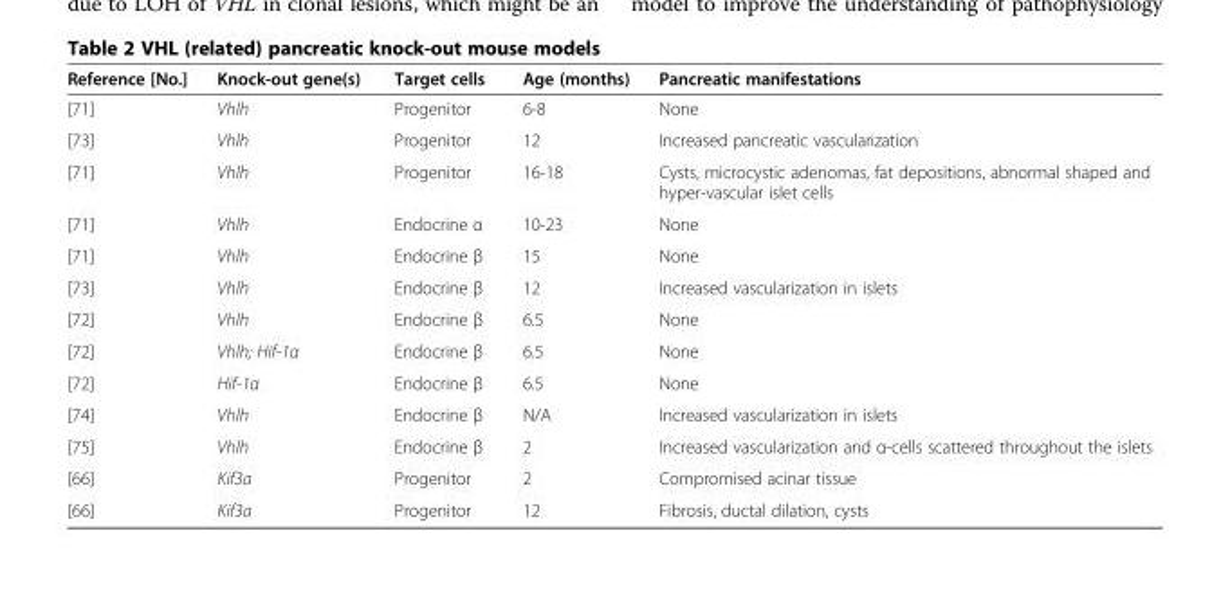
<table><thead><tr><td>Reference [No.]</td><td>Knock-out gene(s)</td><td>Target cells</td><td>Age (months)</td><td>Pancreatic manifestations</td></tr></thead><tbody><tr><td>[71]</td><td>Vhlh</td><td>Progenitor</td><td>6-8</td><td>None</td></tr><tr><td>[73]</td><td>Vhlh</td><td>Progenitor</td><td>12</td><td>Increased pancreatic vascularization</td></tr><tr><td>[71]</td><td>Vhlh</td><td>Progenitor</td><td>16-18</td><td>Cysts, microcystic adenomas, fat depositions, abnormal shaped and hyper-vascular islet cells</td></tr><tr><td>[71]</td><td>Vhlh</td><td>Endocrine α</td><td>10-23</td><td>None</td></tr><tr><td>[71]</td><td>Vhlh</td><td>Endocrine β</td><td>15</td><td>None</td></tr><tr><td>[73]</td><td>Vhlh</td><td>Endocrine β</td><td>12</td><td>Increased vascularization in islets</td></tr><tr><td>[72]</td><td>Vhlh</td><td>Endocrine β</td><td>6.5</td><td>None</td></tr><tr><td>[72]</td><td>Vhlh; Hif-1α</td><td>Endocrine β</td><td>6.5</td><td>None</td></tr><tr><td>[72]</td><td>Hif-1α</td><td>Endocrine β</td><td>6.5</td><td>None</td></tr><tr><td>[74]</td><td>Vhlh</td><td>Endocrine β</td><td>N/A</td><td>Increased vascularization in islets</td></tr><tr><td>[75]</td><td>Vhlh</td><td>Endocrine β</td><td>2</td><td>Increased vascularization and α-cells scattered throughout the islets</td></tr><tr><td>[66]</td><td>Kif3a</td><td>Progenitor</td><td>2</td><td>Compromised acinar tissue</td></tr><tr><td>[66]</td><td>Kif3a</td><td>Progenitor</td><td>12</td><td>Fibrosis, ductal dilation, cysts</td></tr></tbody></table>